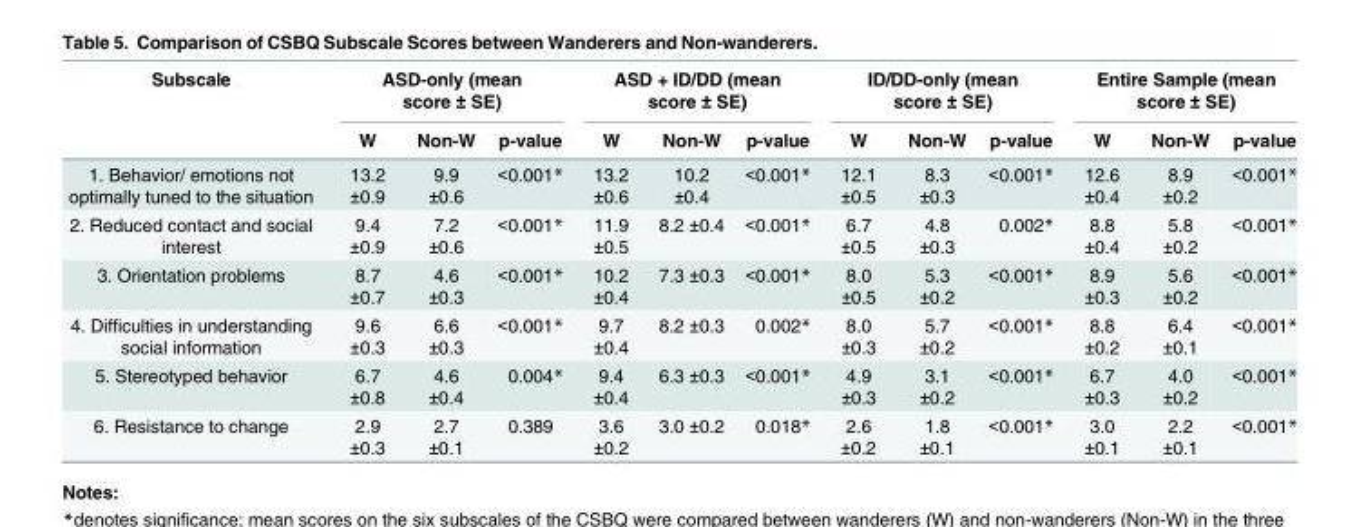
<table><thead><tr><td rowspan="2">Subscale</td><td colspan="3">ASD-only (mean score ± SE)</td><td colspan="3">ASD + ID/DD (mean score ± SE)</td><td colspan="3">ID/DD-only (mean score ± SE)</td><td colspan="3">Entire Sample (mean score ± SE)</td></tr><tr><td>W</td><td>Non-W</td><td>p-value</td><td>W</td><td>Non-W</td><td>p-value</td><td>W</td><td>Non-W</td><td>p-value</td><td>W</td><td>Non-W</td><td>p-value</td></tr></thead><tbody><tr><td>1. Behavior/ emotions not optimally tuned to the situation</td><td>13.2 ±0.9</td><td>9.9 ±0.6</td><td>&lt;0.001*</td><td>13.2 ±0.6</td><td>10.2 ±0.4</td><td>&lt;0.001*</td><td>12.1 ±0.5</td><td>8.3 ±0.3</td><td>&lt;0.001*</td><td>12.6 ±0.4</td><td>8.9 ±0.2</td><td>&lt;0.001*</td></tr><tr><td>2. Reduced contact and social interest</td><td>9.4 ±0.9</td><td>7.2 ±0.6</td><td>&lt;0.001*</td><td>11.9 ±0.5</td><td>8.2 ±0.4</td><td>&lt;0.001*</td><td>6.7 ±0.5</td><td>4.8 ±0.3</td><td>0.002*</td><td>8.8 ±0.4</td><td>5.8 ±0.2</td><td>&lt;0.001*</td></tr><tr><td>3. Orientation problems</td><td>8.7 ±0.7</td><td>4.6 ±0.3</td><td>&lt;0.001*</td><td>10.2 ±0.4</td><td>7.3 ±0.3</td><td>&lt;0.001*</td><td>8.0 ±0.5</td><td>5.3 ±0.2</td><td>&lt;0.001*</td><td>8.9 ±0.3</td><td>5.6 ±0.2</td><td>&lt;0.001*</td></tr><tr><td>4. Difficulties in understanding social information</td><td>9.6 ±0.3</td><td>6.6 ±0.3</td><td>&lt;0.001*</td><td>9.7 ±0.4</td><td>8.2 ±0.3</td><td>0.002*</td><td>8.0 ±0.3</td><td>5.7 ±0.2</td><td>&lt;0.001*</td><td>8.8 ±0.2</td><td>6.4 ±0.1</td><td>&lt;0.001*</td></tr><tr><td>5. Stereotyped behavior</td><td>6.7 ±0.8</td><td>4.6 ±0.4</td><td>0.004*</td><td>9.4 ±0.4</td><td>6.3 ±0.3</td><td>&lt;0.001*</td><td>4.9 ±0.3</td><td>3.1 ±0.2</td><td>&lt;0.001*</td><td>6.7 ±0.3</td><td>4.0 ±0.2</td><td>&lt;0.001*</td></tr><tr><td>6. Resistance to change</td><td>2.9 ±0.3</td><td>2.7 ±0.1</td><td>0.389</td><td>3.6 ±0.2</td><td>3.0 ±0.2</td><td>0.018*</td><td>2.6 ±0.2</td><td>1.8 ±0.1</td><td>&lt;0.001*</td><td>3.0 ±0.1</td><td>2.2 ±0.1</td><td>&lt;0.001*</td></tr></tbody></table>